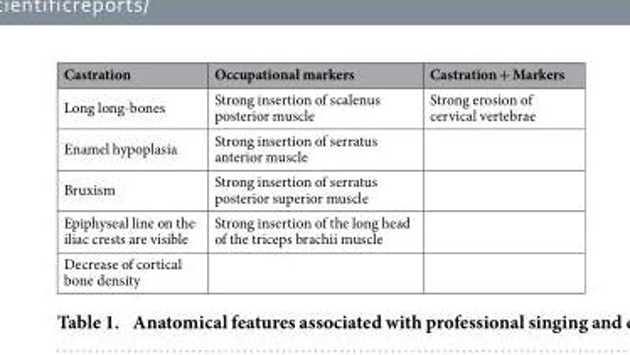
<table><thead><tr><td>Castration</td><td>Occupational markers</td><td>Castration + Markers</td></tr></thead><tbody><tr><td>Long long-bones</td><td>Strong insertion of scalenus posterior muscle</td><td>Strong erosion of cervical vertebrae</td></tr><tr><td>Enamel hypoplasia</td><td>Strong insertion of serratus anterior muscle</td><td></td></tr><tr><td>Bruxism</td><td>Strong insertion of serratus posterior superior muscle</td><td></td></tr><tr><td>Epiphyseal line on the iliac crests are visible</td><td>Strong insertion of the long head of the triceps brachii muscle</td><td></td></tr><tr><td>Decrease of cortical bone density</td><td></td><td></td></tr></tbody></table>